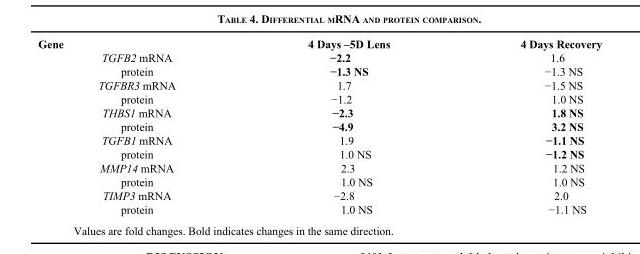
<table><thead><tr><td>Gene</td><td>4 Days –5D Lens</td><td>4 Days Recovery</td></tr></thead><tbody><tr><td>TGFB2 mRNA</td><td>−2.2</td><td>1.6</td></tr><tr><td>protein</td><td>−1.3 NS</td><td>−1.3 NS</td></tr><tr><td>TGFBR3 mRNA</td><td>1.7</td><td>−1.5 NS</td></tr><tr><td>protein</td><td>−1.2</td><td>1.0 NS</td></tr><tr><td>THBS1 mRNA</td><td>−2.3</td><td>1.8 NS</td></tr><tr><td>protein</td><td>−4.9</td><td>3.2 NS</td></tr><tr><td>TGFB1 mRNA</td><td>1.9</td><td>−1.1 NS</td></tr><tr><td>protein</td><td>1.0 NS</td><td>−1.2 NS</td></tr><tr><td>MMP14 mRNA</td><td>2.3</td><td>1.2 NS</td></tr><tr><td>protein</td><td>1.0 NS</td><td>1.0 NS</td></tr><tr><td>TIMP3 mRNA</td><td>−2.8</td><td>2.0</td></tr><tr><td>protein</td><td>1.0 NS</td><td>−1.1 NS</td></tr></tbody></table>